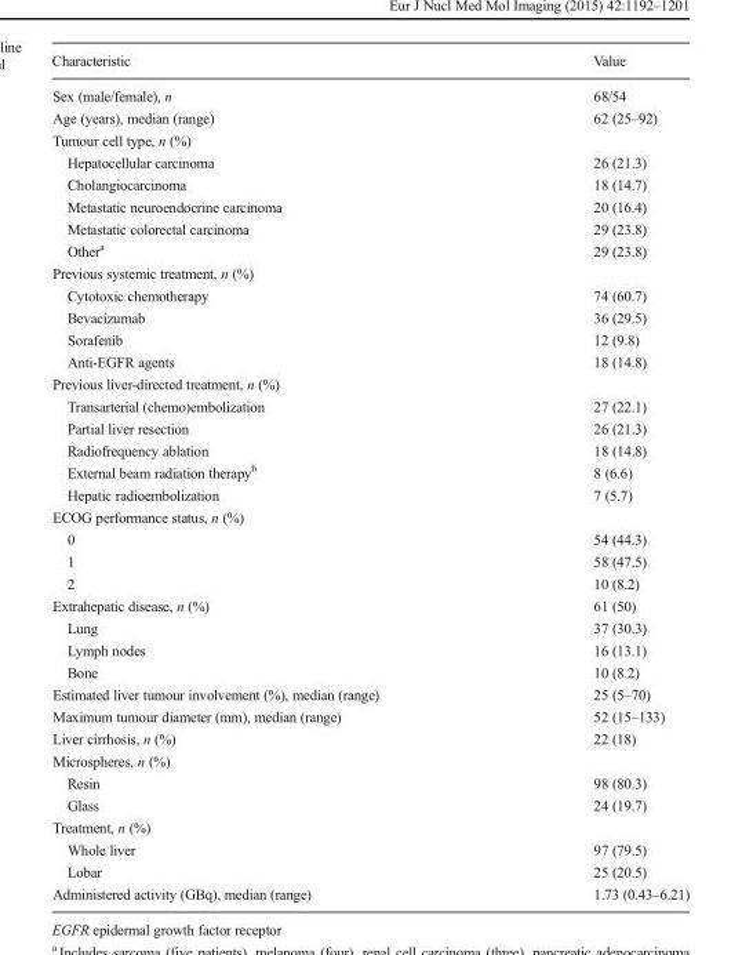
<table><thead><tr><td>Characteristic</td><td>Value</td></tr></thead><tbody><tr><td>Sex (male/female), n</td><td>68/54</td></tr><tr><td>Age (years), median (range)</td><td>62 (25–92)</td></tr><tr><td colspan="2">Tumour cell type, n (%)</td></tr><tr><td>Hepatocellular carcinoma</td><td>26 (21.3)</td></tr><tr><td>Cholangiocarcinoma</td><td>18 (14.7)</td></tr><tr><td>Metastatic neuroendocrine carcinoma</td><td>20 (16.4)</td></tr><tr><td>Metastatic colorectal carcinoma</td><td>29 (23.8)</td></tr><tr><td>Other<sup>a</sup></td><td>29 (23.8)</td></tr><tr><td colspan="2">Previous systemic treatment, n (%)</td></tr><tr><td>Cytotoxic chemotherapy</td><td>74 (60.7)</td></tr><tr><td>Bevacizumab</td><td>36 (29.5)</td></tr><tr><td>Sorafenib</td><td>12 (9.8)</td></tr><tr><td>Anti-EGFR agents</td><td>18 (14.8)</td></tr><tr><td colspan="2">Previous liver-directed treatment, n (%)</td></tr><tr><td>Transarterial (chemo)embolization</td><td>27 (22.1)</td></tr><tr><td>Partial liver resection</td><td>26 (21.3)</td></tr><tr><td>Radiofrequency ablation</td><td>18 (14.8)</td></tr><tr><td>External beam radiation therapy<sup>b</sup></td><td>8 (6.6)</td></tr><tr><td>Hepatic radioembolization</td><td>7 (5.7)</td></tr><tr><td colspan="2">ECOG performance status, n (%)</td></tr><tr><td>0</td><td>54 (44.3)</td></tr><tr><td>1</td><td>58 (47.5)</td></tr><tr><td>2</td><td>10 (8.2)</td></tr><tr><td>Extrahepatic disease, n (%)</td><td>61 (50)</td></tr><tr><td>Lung</td><td>37 (30.3)</td></tr><tr><td>Lymph nodes</td><td>16 (13.1)</td></tr><tr><td>Bone</td><td>10 (8.2)</td></tr><tr><td>Estimated liver tumour involvement (%), median (range)</td><td>25 (5–70)</td></tr><tr><td>Maximum tumour diameter (mm), median (range)</td><td>52 (15–133)</td></tr><tr><td>Liver cirrhosis, n (%)</td><td>22 (18)</td></tr><tr><td colspan="2">Microspheres, n (%)</td></tr><tr><td>Resin</td><td>98 (80.3)</td></tr><tr><td>Glass</td><td>24 (19.7)</td></tr><tr><td colspan="2">Treatment, n (%)</td></tr><tr><td>Whole liver</td><td>97 (79.5)</td></tr><tr><td>Lobar</td><td>25 (20.5)</td></tr><tr><td>Administered activity (GBq), median (range)</td><td>1.73 (0.43–6.21)</td></tr></tbody></table>